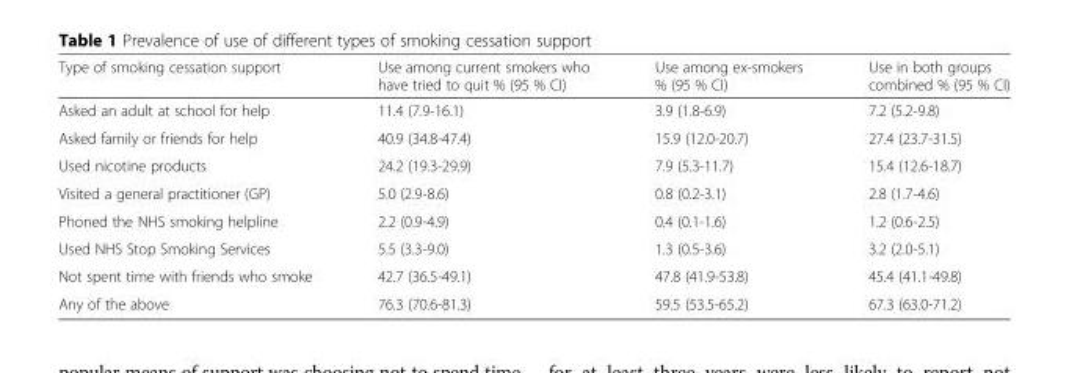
<table><thead><tr><td>Type of smoking cessation support</td><td>Use among current smokers who have tried to quit % (95 % CI)</td><td>Use among ex-smokers % (95 % CI)</td><td>Use in both groups combined % (95 % CI)</td></tr></thead><tbody><tr><td>Asked an adult at school for help</td><td>11.4 (7.9-16.1)</td><td>3.9 (1.8-6.9)</td><td>7.2 (5.2-9.8)</td></tr><tr><td>Asked family or friends for help</td><td>40.9 (34.8-47.4)</td><td>15.9 (12.0-20.7)</td><td>27.4 (23.7-31.5)</td></tr><tr><td>Used nicotine products</td><td>24.2 (19.3-29.9)</td><td>7.9 (5.3-11.7)</td><td>15.4 (12.6-18.7)</td></tr><tr><td>Visited a general practitioner (GP)</td><td>5.0 (2.9-8.6)</td><td>0.8 (0.2-3.1)</td><td>2.8 (1.7-4.6)</td></tr><tr><td>Phoned the NHS smoking helpline</td><td>2.2 (0.9-4.9)</td><td>0.4 (0.1-1.6)</td><td>1.2 (0.6-2.5)</td></tr><tr><td>Used NHS Stop Smoking Services</td><td>5.5 (3.3-9.0)</td><td>1.3 (0.5-3.6)</td><td>3.2 (2.0-5.1)</td></tr><tr><td>Not spent time with friends who smoke</td><td>42.7 (36.5-49.1)</td><td>47.8 (41.9-53.8)</td><td>45.4 (41.1-49.8)</td></tr><tr><td>Any of the above</td><td>76.3 (70.6-81.3)</td><td>59.5 (53.5-65.2)</td><td>67.3 (63.0-71.2)</td></tr></tbody></table>